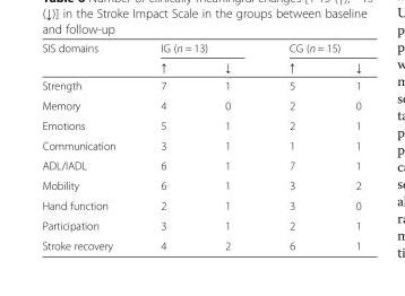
<table><thead><tr><td rowspan="2">SIS domains</td><td colspan="2">IG (n = 13)</td><td colspan="2">CG (n = 15)</td></tr><tr><td>↑</td><td>↓</td><td>↑</td><td>↓</td></tr></thead><tbody><tr><td>Strength</td><td>7</td><td>1</td><td>5</td><td>1</td></tr><tr><td>Memory</td><td>4</td><td>0</td><td>2</td><td>0</td></tr><tr><td>Emotions</td><td>5</td><td>1</td><td>2</td><td>1</td></tr><tr><td>Communication</td><td>3</td><td>1</td><td>1</td><td>1</td></tr><tr><td>ADL/IADL</td><td>6</td><td>1</td><td>7</td><td>1</td></tr><tr><td>Mobility</td><td>6</td><td>1</td><td>3</td><td>2</td></tr><tr><td>Hand function</td><td>2</td><td>1</td><td>3</td><td>0</td></tr><tr><td>Participation</td><td>3</td><td>1</td><td>2</td><td>1</td></tr><tr><td>Stroke recovery</td><td>4</td><td>2</td><td>6</td><td>1</td></tr></tbody></table>